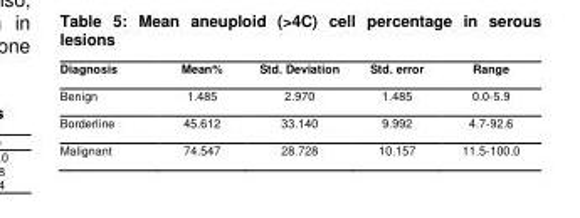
<table><thead><tr><td>Diagnosis</td><td>Mean%</td><td>Std. Deviation</td><td>Std. error</td><td>Range</td></tr></thead><tbody><tr><td>Benign</td><td>1.485</td><td>2.970</td><td>1.485</td><td>0.0-5.9</td></tr><tr><td>Borderline</td><td>45.612</td><td>33.140</td><td>9.992</td><td>4.7-92.6</td></tr><tr><td>Malignant</td><td>74.547</td><td>28.728</td><td>10.157</td><td>11.5-100.0</td></tr></tbody></table>